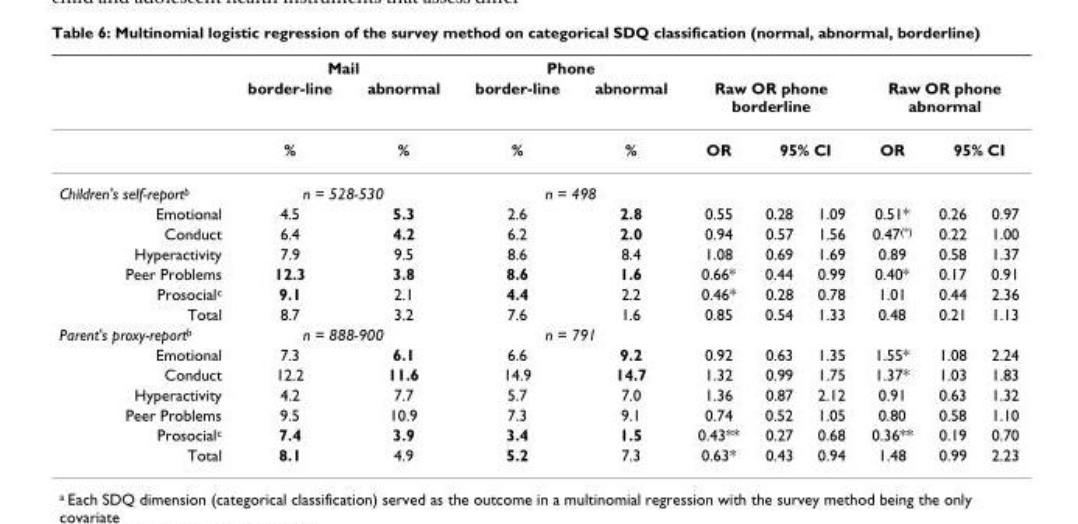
<table><thead><tr><td rowspan="2"></td><td colspan="2">Mail</td><td colspan="2">Phone</td><td></td><td></td><td></td><td></td><td></td><td></td></tr><tr><td>border-line</td><td>abnormal</td><td>border-line</td><td>abnormal</td><td colspan="3">Raw OR phone borderline</td><td colspan="3">Raw OR phone abnormal</td></tr></thead><tbody><tr><td></td><td>%</td><td>%</td><td>%</td><td>%</td><td>OR</td><td colspan="2">95% CI</td><td>OR</td><td colspan="2">95% CI</td></tr><tr><td>Children&#x27;s self-report<sup>b</sup></td><td colspan="2">n = 528-530</td><td colspan="2">n = 498</td><td></td><td></td><td></td><td></td><td></td><td></td></tr><tr><td>Emotional</td><td>4.5</td><td>5.3</td><td>2.6</td><td>2.8</td><td>0.55</td><td>0.28</td><td>1.09</td><td>0.51*</td><td>0.26</td><td>0.97</td></tr><tr><td>Conduct</td><td>6.4</td><td>4.2</td><td>6.2</td><td>2.0</td><td>0.94</td><td>0.57</td><td>1.56</td><td>0.47<sup>(*)</sup></td><td>0.22</td><td>1.00</td></tr><tr><td>Hyperactivity</td><td>7.9</td><td>9.5</td><td>8.6</td><td>8.4</td><td>1.08</td><td>0.69</td><td>1.69</td><td>0.89</td><td>0.58</td><td>1.37</td></tr><tr><td>Peer Problems</td><td>12.3</td><td>3.8</td><td>8.6</td><td>1.6</td><td>0.66*</td><td>0.44</td><td>0.99</td><td>0.40*</td><td>0.17</td><td>0.91</td></tr><tr><td>Prosocial<sup>c</sup></td><td>9.1</td><td>2.1</td><td>4.4</td><td>2.2</td><td>0.46*</td><td>0.28</td><td>0.78</td><td>1.01</td><td>0.44</td><td>2.36</td></tr><tr><td>Total</td><td>8.7</td><td>3.2</td><td>7.6</td><td>1.6</td><td>0.85</td><td>0.54</td><td>1.33</td><td>0.48</td><td>0.21</td><td>1.13</td></tr><tr><td>Parent&#x27;s proxy-report<sup>b</sup></td><td colspan="2">n = 888-900</td><td colspan="2">n = 791</td><td></td><td></td><td></td><td></td><td></td><td></td></tr><tr><td>Emotional</td><td>7.3</td><td>6.1</td><td>6.6</td><td>9.2</td><td>0.92</td><td>0.63</td><td>1.35</td><td>1.55*</td><td>1.08</td><td>2.24</td></tr><tr><td>Conduct</td><td>12.2</td><td>11.6</td><td>14.9</td><td>14.7</td><td>1.32</td><td>0.99</td><td>1.75</td><td>1.37*</td><td>1.03</td><td>1.83</td></tr><tr><td>Hyperactivity</td><td>4.2</td><td>7.7</td><td>5.7</td><td>7.0</td><td>1.36</td><td>0.87</td><td>2.12</td><td>0.91</td><td>0.63</td><td>1.32</td></tr><tr><td>Peer Problems</td><td>9.5</td><td>10.9</td><td>7.3</td><td>9.1</td><td>0.74</td><td>0.52</td><td>1.05</td><td>0.80</td><td>0.58</td><td>1.10</td></tr><tr><td>Prosocial<sup>c</sup></td><td>7.4</td><td>3.9</td><td>3.4</td><td>1.5</td><td>0.43**</td><td>0.27</td><td>0.68</td><td>0.36**</td><td>0.19</td><td>0.70</td></tr><tr><td>Total</td><td>8.1</td><td>4.9</td><td>5.2</td><td>7.3</td><td>0.63*</td><td>0.43</td><td>0.94</td><td>1.48</td><td>0.99</td><td>2.23</td></tr></tbody></table>